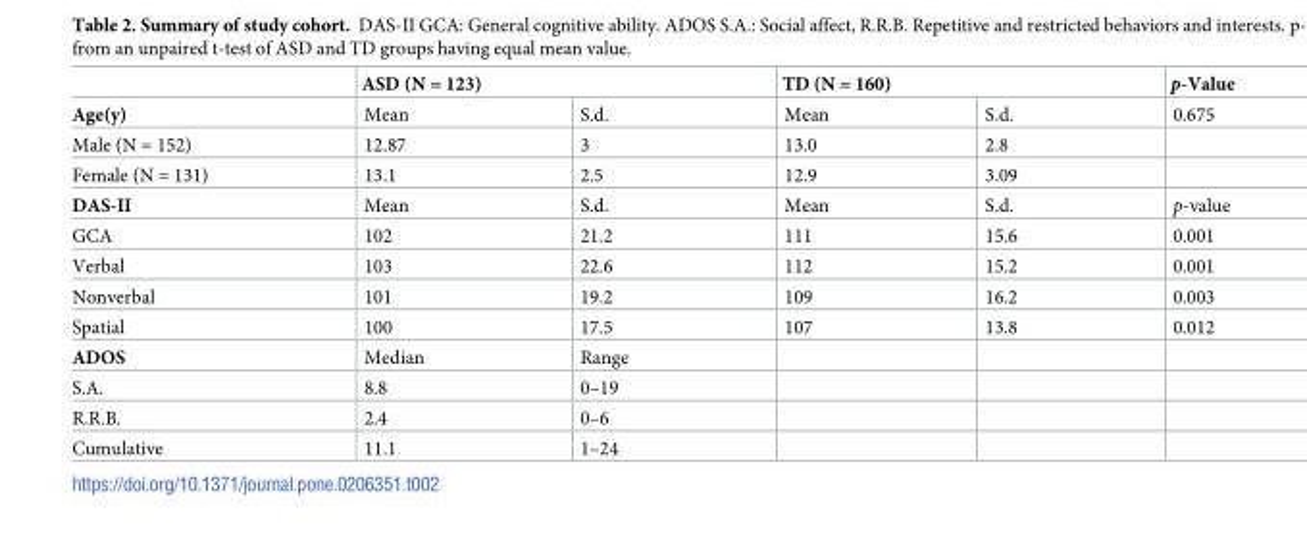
<table><thead><tr><td rowspan="2">Age(y)</td><td colspan="2">ASD (N = 123)</td><td colspan="2">TD (N = 160)</td><td rowspan="2">p-Value 0.675</td></tr><tr><td>Mean</td><td>S.d.</td><td>Mean</td><td>S.d.</td></tr></thead><tbody><tr><td>Male (N = 152)</td><td>12.87</td><td>3</td><td>13.0</td><td>2.8</td><td></td></tr><tr><td>Female (N = 131)</td><td>13.1</td><td>2.5</td><td>12.9</td><td>3.09</td><td></td></tr><tr><td>DAS-II</td><td>Mean</td><td>S.d.</td><td>Mean</td><td>S.d.</td><td>p-value</td></tr><tr><td>GCA</td><td>102</td><td>21.2</td><td>111</td><td>15.6</td><td>0.001</td></tr><tr><td>Verbal</td><td>103</td><td>22.6</td><td>112</td><td>15.2</td><td>0.001</td></tr><tr><td>Nonverbal</td><td>101</td><td>19.2</td><td>109</td><td>16.2</td><td>0.003</td></tr><tr><td>Spatial</td><td>100</td><td>17.5</td><td>107</td><td>13.8</td><td>0.012</td></tr><tr><td>ADOS</td><td>Median</td><td>Range</td><td></td><td></td><td></td></tr><tr><td>S.A.</td><td>8.8</td><td>0–19</td><td></td><td></td><td></td></tr><tr><td>R.R.B.</td><td>2.4</td><td>0–6</td><td></td><td></td><td></td></tr><tr><td>Cumulative</td><td>11.1</td><td>1–24</td><td></td><td></td><td></td></tr></tbody></table>